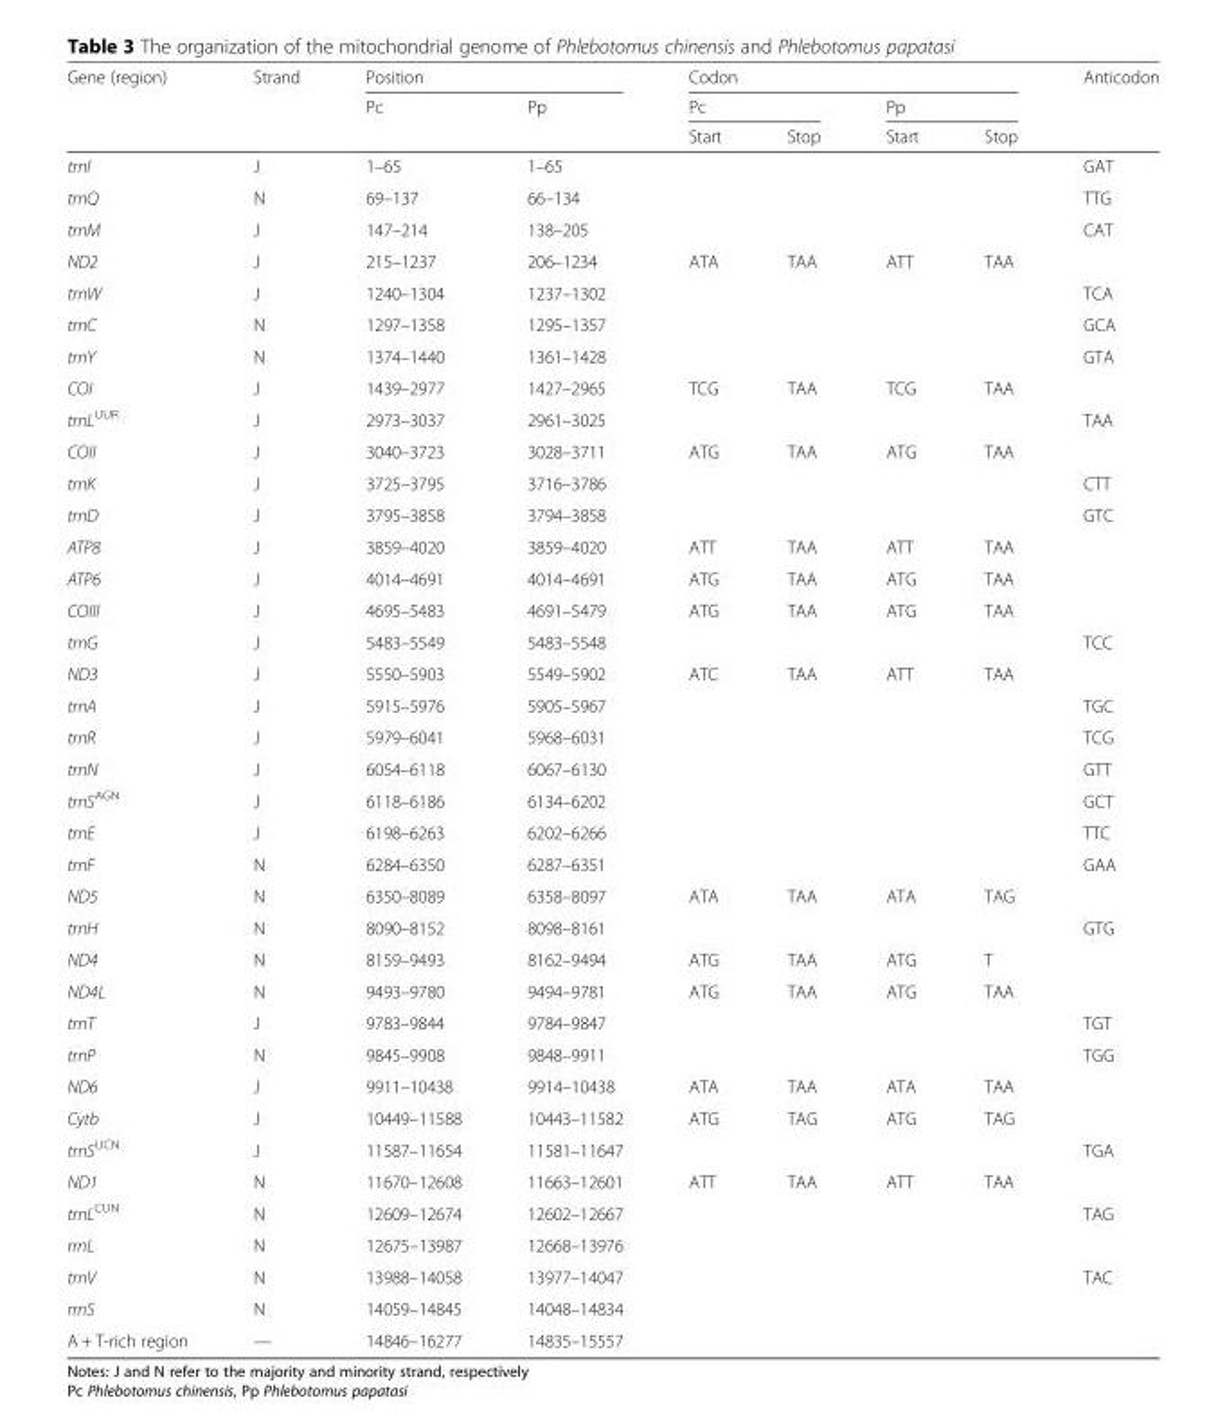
<table><thead><tr><td rowspan="3">Gene (region)</td><td rowspan="3">Strand</td><td colspan="2">Position</td><td colspan="4">Codon</td><td rowspan="3">Anticodon</td></tr><tr><td rowspan="2">Pc</td><td rowspan="2">Pp</td><td colspan="2">Pc</td><td colspan="2">Pp</td></tr><tr><td>Start</td><td>Stop</td><td>Start</td><td>Stop</td></tr></thead><tbody><tr><td>trnI</td><td>J</td><td>1–65</td><td>1–65</td><td></td><td></td><td></td><td></td><td>GAT</td></tr><tr><td>trnQ</td><td>N</td><td>69–137</td><td>66–134</td><td></td><td></td><td></td><td></td><td>TTG</td></tr><tr><td>trnM</td><td>J</td><td>147–214</td><td>138–205</td><td></td><td></td><td></td><td></td><td>CAT</td></tr><tr><td>ND2</td><td>J</td><td>215–1237</td><td>206–1234</td><td>ATA</td><td>TAA</td><td>ATT</td><td>TAA</td><td></td></tr><tr><td>trnW</td><td>J</td><td>1240–1304</td><td>1237–1302</td><td></td><td></td><td></td><td></td><td>TCA</td></tr><tr><td>trnC</td><td>N</td><td>1297–1358</td><td>1295–1357</td><td></td><td></td><td></td><td></td><td>GCA</td></tr><tr><td>trnY</td><td>N</td><td>1374–1440</td><td>1361–1428</td><td></td><td></td><td></td><td></td><td>GTA</td></tr><tr><td>COI</td><td>J</td><td>1439–2977</td><td>1427–2965</td><td>TCG</td><td>TAA</td><td>TCG</td><td>TAA</td><td></td></tr><tr><td>trnL<sup>UUR</sup></td><td>J</td><td>2973–3037</td><td>2961–3025</td><td></td><td></td><td></td><td></td><td>TAA</td></tr><tr><td>COII</td><td>J</td><td>3040–3723</td><td>3028–3711</td><td>ATG</td><td>TAA</td><td>ATG</td><td>TAA</td><td></td></tr><tr><td>trnK</td><td>J</td><td>3725–3795</td><td>3716–3786</td><td></td><td></td><td></td><td></td><td>CTT</td></tr><tr><td>trnD</td><td>J</td><td>3795–3858</td><td>3794–3858</td><td></td><td></td><td></td><td></td><td>GTC</td></tr><tr><td>ATP8</td><td>J</td><td>3859–4020</td><td>3859–4020</td><td>ATT</td><td>TAA</td><td>ATT</td><td>TAA</td><td></td></tr><tr><td>ATP6</td><td>J</td><td>4014–4691</td><td>4014–4691</td><td>ATG</td><td>TAA</td><td>ATG</td><td>TAA</td><td></td></tr><tr><td>COIII</td><td>J</td><td>4695–5483</td><td>4691–5479</td><td>ATG</td><td>TAA</td><td>ATG</td><td>TAA</td><td></td></tr><tr><td>trnG</td><td>J</td><td>5483–5549</td><td>5483–5548</td><td></td><td></td><td></td><td></td><td>TCC</td></tr><tr><td>ND3</td><td>J</td><td>5550–5903</td><td>5549–5902</td><td>ATC</td><td>TAA</td><td>ATT</td><td>TAA</td><td></td></tr><tr><td>trnA</td><td>J</td><td>5915–5976</td><td>5905–5967</td><td></td><td></td><td></td><td></td><td>TGC</td></tr><tr><td>trnR</td><td>J</td><td>5979–6041</td><td>5968–6031</td><td></td><td></td><td></td><td></td><td>TCG</td></tr><tr><td>trnN</td><td>J</td><td>6054–6118</td><td>6067–6130</td><td></td><td></td><td></td><td></td><td>GTT</td></tr><tr><td>trnS<sup>AGN</sup></td><td>J</td><td>6118–6186</td><td>6134–6202</td><td></td><td></td><td></td><td></td><td>GCT</td></tr><tr><td>trnE</td><td>J</td><td>6198–6263</td><td>6202–6266</td><td></td><td></td><td></td><td></td><td>TTC</td></tr><tr><td>trnF</td><td>N</td><td>6284–6350</td><td>6287–6351</td><td></td><td></td><td></td><td></td><td>GAA</td></tr><tr><td>ND5</td><td>N</td><td>6350–8089</td><td>6358–8097</td><td>ATA</td><td>TAA</td><td>ATA</td><td>TAG</td><td></td></tr><tr><td>trnH</td><td>N</td><td>8090–8152</td><td>8098–8161</td><td></td><td></td><td></td><td></td><td>GTG</td></tr><tr><td>ND4</td><td>N</td><td>8159–9493</td><td>8162–9494</td><td>ATG</td><td>TAA</td><td>ATG</td><td>T</td><td></td></tr><tr><td>ND4L</td><td>N</td><td>9493–9780</td><td>9494–9781</td><td>ATG</td><td>TAA</td><td>ATG</td><td>TAA</td><td></td></tr><tr><td>trnT</td><td>J</td><td>9783–9844</td><td>9784–9847</td><td></td><td></td><td></td><td></td><td>TGT</td></tr><tr><td>trnP</td><td>N</td><td>9845–9908</td><td>9848–9911</td><td></td><td></td><td></td><td></td><td>TGG</td></tr><tr><td>ND6</td><td>J</td><td>9911–10438</td><td>9914–10438</td><td>ATA</td><td>TAA</td><td>ATA</td><td>TAA</td><td></td></tr><tr><td>Cytb</td><td>J</td><td>10449–11588</td><td>10443–11582</td><td>ATG</td><td>TAG</td><td>ATG</td><td>TAG</td><td></td></tr><tr><td>trnS<sup>UCN</sup></td><td>J</td><td>11587–11654</td><td>11581–11647</td><td></td><td></td><td></td><td></td><td>TGA</td></tr><tr><td>ND1</td><td>N</td><td>11670–12608</td><td>11663–12601</td><td>ATT</td><td>TAA</td><td>ATT</td><td>TAA</td><td></td></tr><tr><td>trnL<sup>CUN</sup></td><td>N</td><td>12609–12674</td><td>12602–12667</td><td></td><td></td><td></td><td></td><td>TAG</td></tr><tr><td>rrnL</td><td>N</td><td>12675–13987</td><td>12668–13976</td><td></td><td></td><td></td><td></td><td></td></tr><tr><td>trnV</td><td>N</td><td>13988–14058</td><td>13977–14047</td><td></td><td></td><td></td><td></td><td>TAC</td></tr><tr><td>rrnS</td><td>N</td><td>14059–14845</td><td>14048–14834</td><td></td><td></td><td></td><td></td><td></td></tr><tr><td>A + T-rich region</td><td>—</td><td>14846–16277</td><td>14835–15557</td><td></td><td></td><td></td><td></td><td></td></tr></tbody></table>